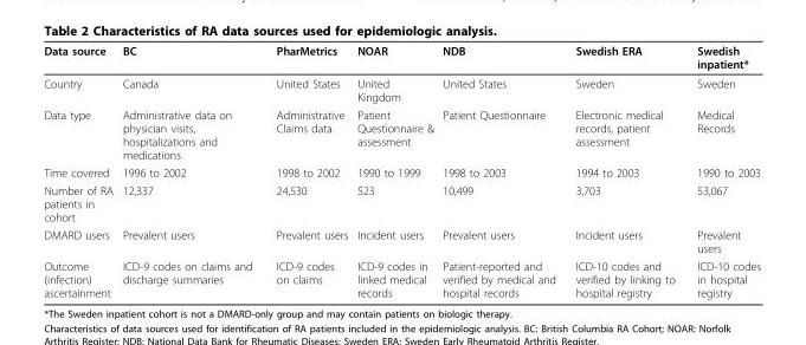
<table><thead><tr><td>Data source</td><td>BC</td><td>PharMetrics</td><td>NOAR</td><td>NDB</td><td>Swedish ERA</td><td>Swedish inpatient*</td></tr></thead><tbody><tr><td>Country</td><td>Canada</td><td>United States</td><td>United Kingdom</td><td>United States</td><td>Sweden</td><td>Sweden</td></tr><tr><td>Data type</td><td>Administrative data on physician visits, hospitalizations and medications</td><td>Administrative Claims data</td><td>Patient Questionnaire &amp; assessment</td><td>Patient Questionnaire</td><td>Electronic medical records, patient assessment</td><td>Medical Records</td></tr><tr><td>Time covered</td><td>1996 to 2002</td><td>1998 to 2002</td><td>1990 to 1999</td><td>1998 to 2003</td><td>1994 to 2003</td><td>1990 to 2003</td></tr><tr><td>Number of RA patients in cohort</td><td>12,337</td><td>24,530</td><td>523</td><td>10,499</td><td>3,703</td><td>53,067</td></tr><tr><td>DMARD users</td><td>Prevalent users</td><td>Prevalent users</td><td>Incident users</td><td>Prevalent users</td><td>Incident users</td><td>Prevalent users</td></tr><tr><td>Outcome (infection) ascertainment</td><td>ICD-9 codes on claims and discharge summaries</td><td>ICD-9 codes on claims</td><td>ICD-9 codes in linked medical records</td><td>Patient-reported and verified by medical and hospital records</td><td>ICD-10 codes and verified by linking to hospital registry</td><td>ICD-10 codes in hospital registry</td></tr></tbody></table>